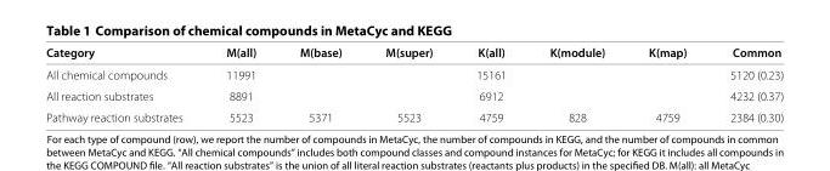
<table><thead><tr><td>Category</td><td>M(all)</td><td>M(base)</td><td>M(super)</td><td>K(all)</td><td>K(module)</td><td>K(map)</td><td>Common</td></tr></thead><tbody><tr><td>All chemical compounds</td><td>11991</td><td></td><td></td><td>15161</td><td></td><td></td><td>5120 (0.23)</td></tr><tr><td>All reaction substrates</td><td>8891</td><td></td><td></td><td>6912</td><td></td><td></td><td>4232 (0.37)</td></tr><tr><td>Pathway reaction substrates</td><td>5523</td><td>5371</td><td>5523</td><td>4759</td><td>828</td><td>4759</td><td>2384 (0.30)</td></tr></tbody></table>